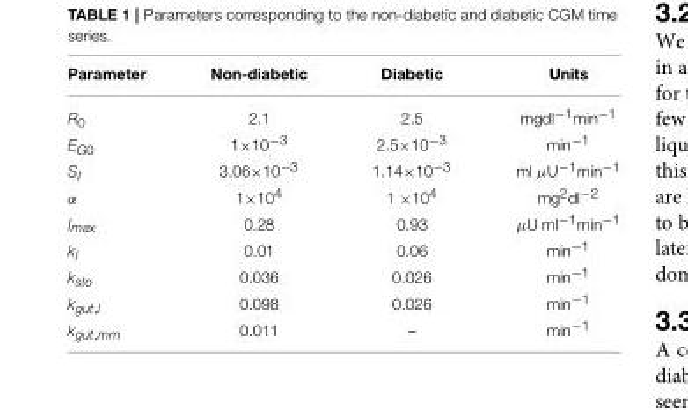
<table><thead><tr><td>Parameter</td><td>Non-diabetic</td><td>Diabetic</td><td>Units</td></tr></thead><tbody><tr><td>R<sub>0</sub></td><td>2.1</td><td>2.5</td><td>mgdl<sup>−1</sup>min<sup>−1</sup></td></tr><tr><td>E<sub>G0</sub></td><td>1×10<sup>−3</sup></td><td>2.5×10<sup>−3</sup></td><td>min<sup>−1</sup></td></tr><tr><td>S<sub>I</sub></td><td>3.06×10<sup>−3</sup></td><td>1.14×10<sup>−3</sup></td><td>ml µU<sup>−1</sup>min<sup>−1</sup></td></tr><tr><td>α</td><td>1×10<sup>4</sup></td><td>1 ×10<sup>4</sup></td><td>mg<sup>2</sup>dl<sup>−2</sup></td></tr><tr><td>I<sub>max</sub></td><td>0.28</td><td>0.93</td><td>µU ml<sup>−1</sup>min<sup>−1</sup></td></tr><tr><td>k<sub>I</sub></td><td>0.01</td><td>0.06</td><td>min<sup>−1</sup></td></tr><tr><td>k<sub>sto</sub></td><td>0.036</td><td>0.026</td><td>min<sup>−1</sup></td></tr><tr><td>k<sub>gut,l</sub></td><td>0.098</td><td>0.026</td><td>min<sup>−1</sup></td></tr><tr><td>k<sub>gut,mm</sub></td><td>0.011</td><td>–</td><td>min<sup>−1</sup></td></tr></tbody></table>